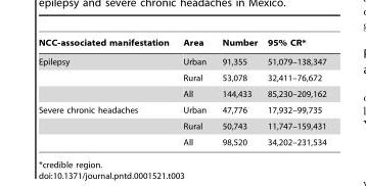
<table><thead><tr><td>NCC-associated manifestation</td><td>Area</td><td>Number</td><td>95% CR*</td></tr></thead><tbody><tr><td rowspan="3">Epilepsy</td><td>Urban</td><td>91,355</td><td>51,079–138,347</td></tr><tr><td>Rural</td><td>53,078</td><td>32,411–76,672</td></tr><tr><td>All</td><td>144,433</td><td>85,230–209,162</td></tr><tr><td rowspan="3">Severe chronic headaches</td><td>Urban</td><td>47,776</td><td>17,932–99,735</td></tr><tr><td>Rural</td><td>50,743</td><td>11,747–159,431</td></tr><tr><td>All</td><td>98,520</td><td>34,202–231,534</td></tr></tbody></table>